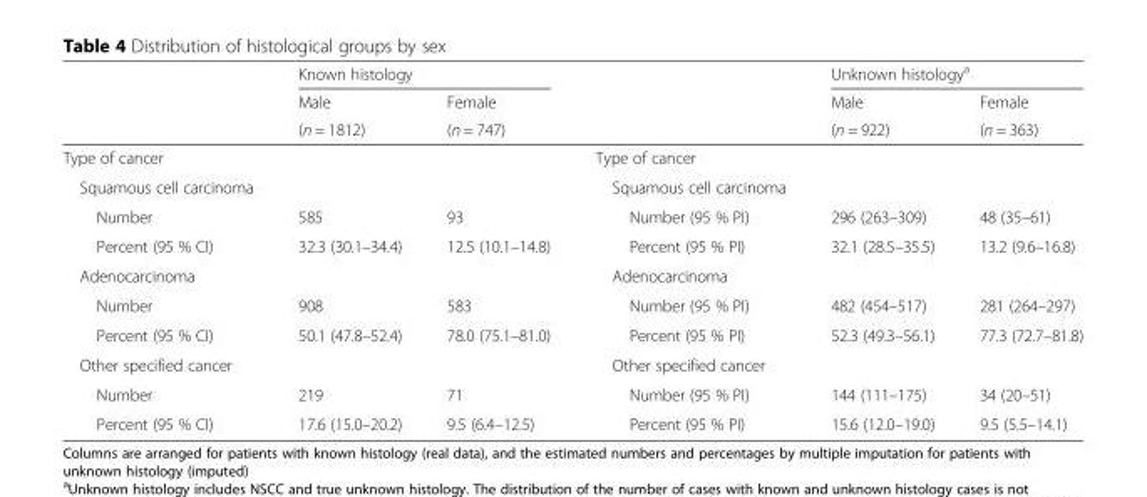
<table><thead><tr><td rowspan="3"></td><td colspan="2">Known histology</td><td rowspan="3"></td><td colspan="2">Unknown histology<sup>a</sup></td></tr><tr><td rowspan="2">Male (n = 1812)</td><td rowspan="2">Female (n = 747)</td><td rowspan="2">Male (n = 922)</td><td rowspan="2">Female (n = 363)</td></tr><tr></tr></thead><tbody><tr><td>Type of cancer</td><td></td><td></td><td>Type of cancer</td><td></td><td></td></tr><tr><td>Squamous cell carcinoma</td><td></td><td></td><td>Squamous cell carcinoma</td><td></td><td></td></tr><tr><td>Number</td><td>585</td><td>93</td><td>Number (95 % PI)</td><td>296 (263–309)</td><td>48 (35–61)</td></tr><tr><td>Percent (95 % CI)</td><td>32.3 (30.1–34.4)</td><td>12.5 (10.1–14.8)</td><td>Percent (95 % PI)</td><td>32.1 (28.5–35.5)</td><td>13.2 (9.6–16.8)</td></tr><tr><td>Adenocarcinoma</td><td></td><td></td><td>Adenocarcinoma</td><td></td><td></td></tr><tr><td>Number</td><td>908</td><td>583</td><td>Number (95 % PI)</td><td>482 (454–517)</td><td>281 (264–297)</td></tr><tr><td>Percent (95 % CI)</td><td>50.1 (47.8–52.4)</td><td>78.0 (75.1–81.0)</td><td>Percent (95 % PI)</td><td>52.3 (49.3–56.1)</td><td>77.3 (72.7–81.8)</td></tr><tr><td>Other specified cancer</td><td></td><td></td><td>Other specified cancer</td><td></td><td></td></tr><tr><td>Number</td><td>219</td><td>71</td><td>Number (95 % PI)</td><td>144 (111–175)</td><td>34 (20–51)</td></tr><tr><td>Percent (95 % CI)</td><td>17.6 (15.0–20.2)</td><td>9.5 (6.4–12.5)</td><td>Percent (95 % PI)</td><td>15.6 (12.0–19.0)</td><td>9.5 (5.5–14.1)</td></tr></tbody></table>